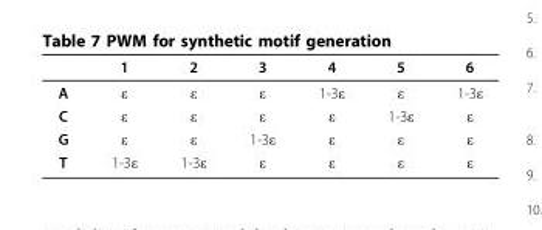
<table><thead><tr><td></td><td>1</td><td>2</td><td>3</td><td>4</td><td>5</td><td>6</td></tr></thead><tbody><tr><td>A</td><td>ε</td><td>ε</td><td>ε</td><td>1-3ε</td><td>ε</td><td>1-3ε</td></tr><tr><td>C</td><td>ε</td><td>ε</td><td>ε</td><td>ε</td><td>1-3ε</td><td>ε</td></tr><tr><td>G</td><td>ε</td><td>ε</td><td>1-3ε</td><td>ε</td><td>ε</td><td>ε</td></tr><tr><td>T</td><td>1-3ε</td><td>1-3ε</td><td>ε</td><td>ε</td><td>ε</td><td>ε</td></tr></tbody></table>